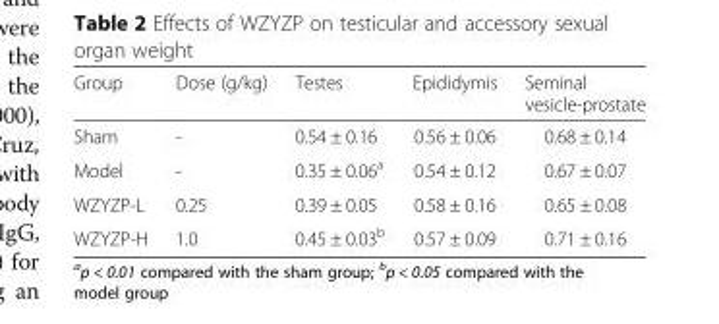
<table><thead><tr><td>Group</td><td>Dose (g/kg)</td><td>Testes</td><td>Epididymis</td><td>Seminal vesicle-prostate</td></tr></thead><tbody><tr><td>Sham</td><td>-</td><td>0.54 ± 0.16</td><td>0.56 ± 0.06</td><td>0.68 ± 0.14</td></tr><tr><td>Model</td><td>-</td><td>0.35 ± 0.06<sup>a</sup></td><td>0.54 ± 0.12</td><td>0.67 ± 0.07</td></tr><tr><td>WZYZP-L</td><td>0.25</td><td>0.39 ± 0.05</td><td>0.58 ± 0.16</td><td>0.65 ± 0.08</td></tr><tr><td>WZYZP-H</td><td>1.0</td><td>0.45 ± 0.03<sup>b</sup></td><td>0.57 ± 0.09</td><td>0.71 ± 0.16</td></tr></tbody></table>